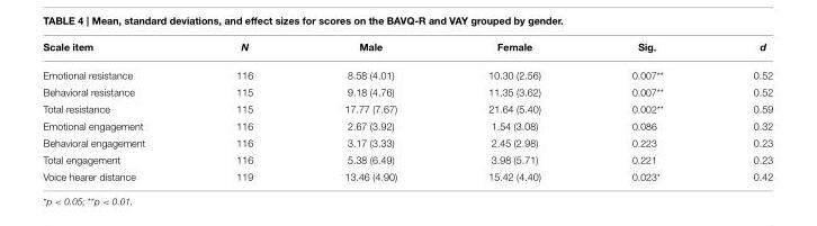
<table><thead><tr><td>Scale item</td><td>N</td><td>Male</td><td>Female</td><td>Sig.</td><td>d</td></tr></thead><tbody><tr><td>Emotional resistance</td><td>116</td><td>8.58 (4.01)</td><td>10.30 (2.56)</td><td>0.007**</td><td>0.52</td></tr><tr><td>Behavioral resistance</td><td>115</td><td>9.18 (4.76)</td><td>11.35 (3.62)</td><td>0.007**</td><td>0.52</td></tr><tr><td>Total resistance</td><td>115</td><td>17.77 (7.67)</td><td>21.64 (5.40)</td><td>0.002**</td><td>0.59</td></tr><tr><td>Emotional engagement</td><td>116</td><td>2.67 (3.92)</td><td>1.54 (3.08)</td><td>0.086</td><td>0.32</td></tr><tr><td>Behavioral engagement</td><td>116</td><td>3.17 (3.33)</td><td>2.45 (2.98)</td><td>0.223</td><td>0.23</td></tr><tr><td>Total engagement</td><td>116</td><td>5.38 (6.49)</td><td>3.98 (5.71)</td><td>0.221</td><td>0.23</td></tr><tr><td>Voice hearer distance</td><td>119</td><td>13.46 (4.90)</td><td>15.42 (4.40)</td><td>0.023*</td><td>0.42</td></tr></tbody></table>